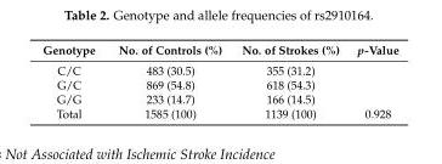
<table><thead><tr><td>Genotype</td><td>No. of Controls (%)</td><td>No. of Strokes (%)</td><td>p-Value</td></tr></thead><tbody><tr><td>C/C</td><td>483 (30.5)</td><td>355 (31.2)</td><td></td></tr><tr><td>G/C</td><td>869 (54.8)</td><td>618 (54.3)</td><td></td></tr><tr><td>G/G</td><td>233 (14.7)</td><td>166 (14.5)</td><td></td></tr><tr><td>Total</td><td>1585 (100)</td><td>1139 (100)</td><td>0.928</td></tr></tbody></table>